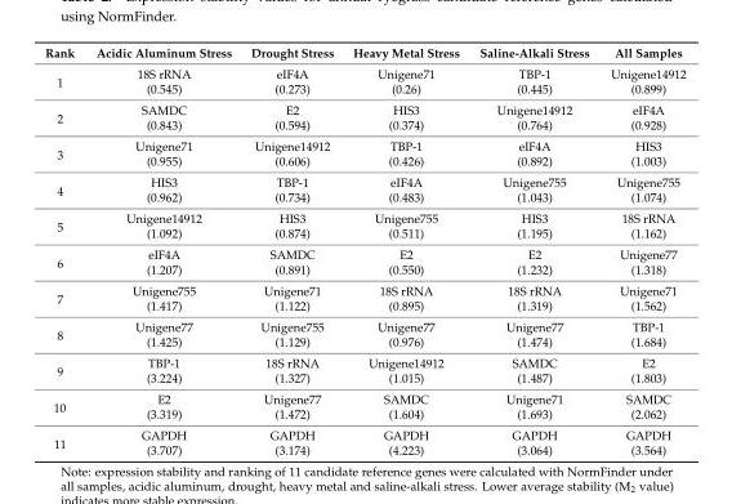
<table><thead><tr><td>Rank</td><td>Acidic Aluminum Stress</td><td>Drought Stress</td><td>Heavy Metal Stress</td><td>Saline-Alkali Stress</td><td>All Samples</td></tr></thead><tbody><tr><td rowspan="2">1</td><td>18S rRNA</td><td>eIF4A</td><td>Unigene71</td><td>TBP-1</td><td>Unigene14912</td></tr><tr><td>(0.545)</td><td>(0.273)</td><td>(0.26)</td><td>(0.445)</td><td>(0.899)</td></tr><tr><td rowspan="2">2</td><td>SAMDC</td><td>E2</td><td>HIS3</td><td>Unigene14912</td><td>eIF4A</td></tr><tr><td>(0.843)</td><td>(0.594)</td><td>(0.374)</td><td>(0.764)</td><td>(0.928)</td></tr><tr><td rowspan="2">3</td><td>Unigene71</td><td>Unigene14912</td><td>TBP-1</td><td>eIF4A</td><td>HIS3</td></tr><tr><td>(0.955)</td><td>(0.606)</td><td>(0.426)</td><td>(0.892)</td><td>(1.003)</td></tr><tr><td rowspan="2">4</td><td>HIS3</td><td>TBP-1</td><td>eIF4A</td><td>Unigene755</td><td>Unigene755</td></tr><tr><td>(0.962)</td><td>(0.734)</td><td>(0.483)</td><td>(1.043)</td><td>(1.074)</td></tr><tr><td rowspan="2">5</td><td>Unigene14912</td><td>HIS3</td><td>Unigene755</td><td>HIS3</td><td>18S rRNA</td></tr><tr><td>(1.092)</td><td>(0.874)</td><td>(0.511)</td><td>(1.195)</td><td>(1.162)</td></tr><tr><td rowspan="2">6</td><td>eIF4A</td><td>SAMDC</td><td>E2</td><td>E2</td><td>Unigene77</td></tr><tr><td>(1.207)</td><td>(0.891)</td><td>(0.550)</td><td>(1.232)</td><td>(1.318)</td></tr><tr><td rowspan="2">7</td><td>Unigene755</td><td>Unigene71</td><td>18S rRNA</td><td>18S rRNA</td><td>Unigene71</td></tr><tr><td>(1.417)</td><td>(1.122)</td><td>(0.895)</td><td>(1.319)</td><td>(1.562)</td></tr><tr><td rowspan="2">8</td><td>Unigene77</td><td>Unigene755</td><td>Unigene77</td><td>Unigene77</td><td>TBP-1</td></tr><tr><td>(1.425)</td><td>(1.129)</td><td>(0.976)</td><td>(1.474)</td><td>(1.684)</td></tr><tr><td rowspan="2">9</td><td>TBP-1</td><td>18S rRNA</td><td>Unigene14912</td><td>SAMDC</td><td>E2</td></tr><tr><td>(3.224)</td><td>(1.327)</td><td>(1.015)</td><td>(1.487)</td><td>(1.803)</td></tr><tr><td rowspan="2">10</td><td>E2</td><td>Unigene77</td><td>SAMDC</td><td>Unigene71</td><td>SAMDC</td></tr><tr><td>(3.319)</td><td>(1.472)</td><td>(1.604)</td><td>(1.693)</td><td>(2.062)</td></tr><tr><td rowspan="2">11</td><td>GAPDH</td><td>GAPDH</td><td>GAPDH</td><td>GAPDH</td><td>GAPDH</td></tr><tr><td>(3.707)</td><td>(3.174)</td><td>(4.223)</td><td>(3.064)</td><td>(3.564)</td></tr></tbody></table>